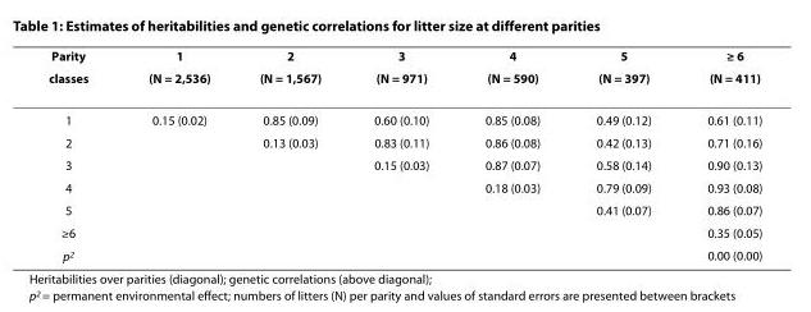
<table><thead><tr><td rowspan="2">Parity classes</td><td rowspan="2">1 (N = 2,536)</td><td rowspan="2">2 (N = 1,567)</td><td rowspan="2">3 (N = 971)</td><td rowspan="2">4 (N = 590)</td><td rowspan="2">5 (N = 397)</td><td rowspan="2">≥ 6 (N = 411)</td></tr><tr></tr></thead><tbody><tr><td>1</td><td>0.15 (0.02)</td><td>0.85 (0.09)</td><td>0.60 (0.10)</td><td>0.85 (0.08)</td><td>0.49 (0.12)</td><td>0.61 (0.11)</td></tr><tr><td>2</td><td></td><td>0.13 (0.03)</td><td>0.83 (0.11)</td><td>0.86 (0.08)</td><td>0.42 (0.13)</td><td>0.71 (0.16)</td></tr><tr><td>3</td><td></td><td></td><td>0.15 (0.03)</td><td>0.87 (0.07)</td><td>0.58 (0.14)</td><td>0.90 (0.13)</td></tr><tr><td>4</td><td></td><td></td><td></td><td>0.18 (0.03)</td><td>0.79 (0.09)</td><td>0.93 (0.08)</td></tr><tr><td>5</td><td></td><td></td><td></td><td></td><td>0.41 (0.07)</td><td>0.86 (0.07)</td></tr><tr><td>≥6</td><td></td><td></td><td></td><td></td><td></td><td>0.35 (0.05)</td></tr><tr><td>p<sup>2</sup></td><td></td><td></td><td></td><td></td><td></td><td>0.00 (0.00)</td></tr></tbody></table>